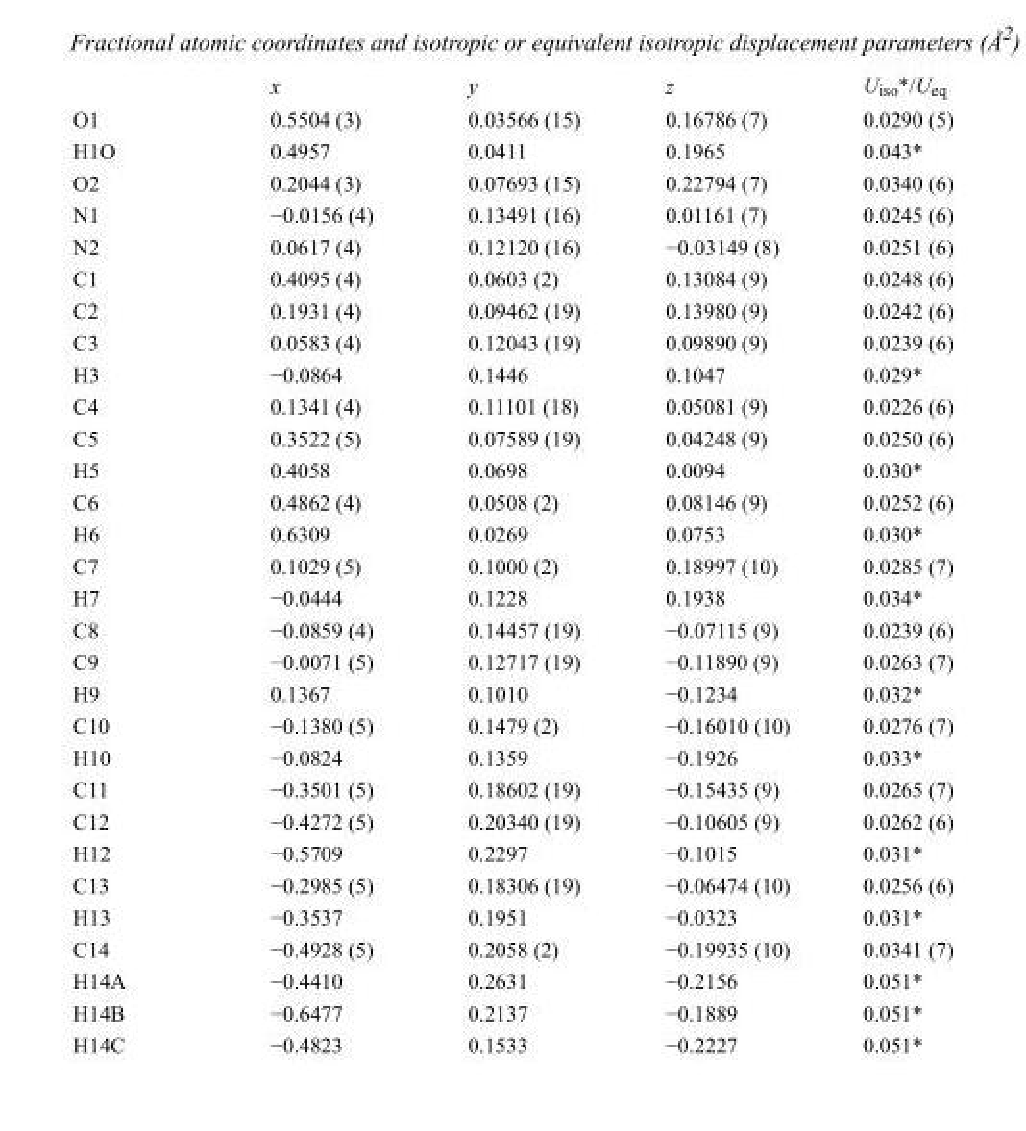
<table><thead><tr><td></td><td>x</td><td>y</td><td>z</td><td>U<sub>iso</sub>*/U<sub>eq</sub></td></tr></thead><tbody><tr><td>O1</td><td>0.5504 (3)</td><td>0.03566 (15)</td><td>0.16786 (7)</td><td>0.0290 (5)</td></tr><tr><td>H1O</td><td>0.4957</td><td>0.0411</td><td>0.1965</td><td>0.043*</td></tr><tr><td>O2</td><td>0.2044 (3)</td><td>0.07693 (15)</td><td>0.22794 (7)</td><td>0.0340 (6)</td></tr><tr><td>N1</td><td>−0.0156 (4)</td><td>0.13491 (16)</td><td>0.01161 (7)</td><td>0.0245 (6)</td></tr><tr><td>N2</td><td>0.0617 (4)</td><td>0.12120 (16)</td><td>−0.03149 (8)</td><td>0.0251 (6)</td></tr><tr><td>C1</td><td>0.4095 (4)</td><td>0.0603 (2)</td><td>0.13084 (9)</td><td>0.0248 (6)</td></tr><tr><td>C2</td><td>0.1931 (4)</td><td>0.09462 (19)</td><td>0.13980 (9)</td><td>0.0242 (6)</td></tr><tr><td>C3</td><td>0.0583 (4)</td><td>0.12043 (19)</td><td>0.09890 (9)</td><td>0.0239 (6)</td></tr><tr><td>H3</td><td>−0.0864</td><td>0.1446</td><td>0.1047</td><td>0.029*</td></tr><tr><td>C4</td><td>0.1341 (4)</td><td>0.11101 (18)</td><td>0.05081 (9)</td><td>0.0226 (6)</td></tr><tr><td>C5</td><td>0.3522 (5)</td><td>0.07589 (19)</td><td>0.04248 (9)</td><td>0.0250 (6)</td></tr><tr><td>H5</td><td>0.4058</td><td>0.0698</td><td>0.0094</td><td>0.030*</td></tr><tr><td>C6</td><td>0.4862 (4)</td><td>0.0508 (2)</td><td>0.08146 (9)</td><td>0.0252 (6)</td></tr><tr><td>H6</td><td>0.6309</td><td>0.0269</td><td>0.0753</td><td>0.030*</td></tr><tr><td>C7</td><td>0.1029 (5)</td><td>0.1000 (2)</td><td>0.18997 (10)</td><td>0.0285 (7)</td></tr><tr><td>H7</td><td>−0.0444</td><td>0.1228</td><td>0.1938</td><td>0.034*</td></tr><tr><td>C8</td><td>−0.0859 (4)</td><td>0.14457 (19)</td><td>−0.07115 (9)</td><td>0.0239 (6)</td></tr><tr><td>C9</td><td>−0.0071 (5)</td><td>0.12717 (19)</td><td>−0.11890 (9)</td><td>0.0263 (7)</td></tr><tr><td>H9</td><td>0.1367</td><td>0.1010</td><td>−0.1234</td><td>0.032*</td></tr><tr><td>C10</td><td>−0.1380 (5)</td><td>0.1479 (2)</td><td>−0.16010 (10)</td><td>0.0276 (7)</td></tr><tr><td>H10</td><td>−0.0824</td><td>0.1359</td><td>−0.1926</td><td>0.033*</td></tr><tr><td>C11</td><td>−0.3501 (5)</td><td>0.18602 (19)</td><td>−0.15435 (9)</td><td>0.0265 (7)</td></tr><tr><td>C12</td><td>−0.4272 (5)</td><td>0.20340 (19)</td><td>−0.10605 (9)</td><td>0.0262 (6)</td></tr><tr><td>H12</td><td>−0.5709</td><td>0.2297</td><td>−0.1015</td><td>0.031*</td></tr><tr><td>C13</td><td>−0.2985 (5)</td><td>0.18306 (19)</td><td>−0.06474 (10)</td><td>0.0256 (6)</td></tr><tr><td>H13</td><td>−0.3537</td><td>0.1951</td><td>−0.0323</td><td>0.031*</td></tr><tr><td>C14</td><td>−0.4928 (5)</td><td>0.2058 (2)</td><td>−0.19935 (10)</td><td>0.0341 (7)</td></tr><tr><td>H14A</td><td>−0.4410</td><td>0.2631</td><td>−0.2156</td><td>0.051*</td></tr><tr><td>H14B</td><td>−0.6477</td><td>0.2137</td><td>−0.1889</td><td>0.051*</td></tr><tr><td>H14C</td><td>−0.4823</td><td>0.1533</td><td>−0.2227</td><td>0.051*</td></tr></tbody></table>